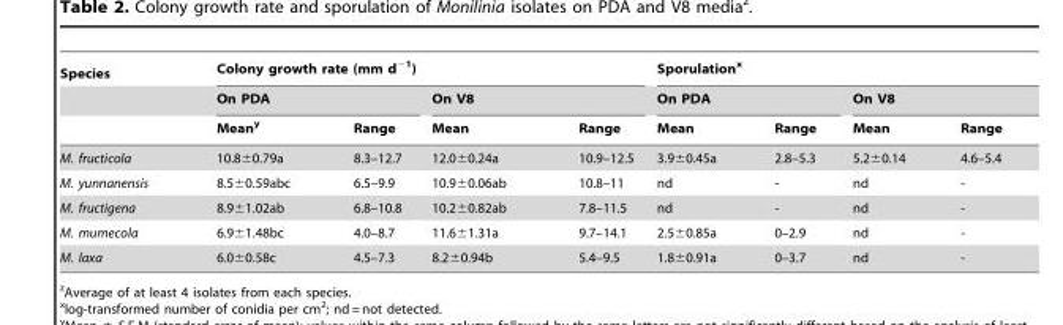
<table><thead><tr><td rowspan="3">Species</td><td colspan="4">Colony growth rate (mm d<sup>−1</sup>)</td><td colspan="4">Sporulation<sup>x</sup></td></tr><tr><td colspan="2">On PDA</td><td colspan="2">On V8</td><td colspan="2">On PDA</td><td colspan="2">On V8</td></tr><tr><td>Mean<sup>y</sup></td><td>Range</td><td>Mean</td><td>Range</td><td>Mean</td><td>Range</td><td>Mean</td><td>Range</td></tr></thead><tbody><tr><td>M. fructicola</td><td>10.8±0.79a</td><td>8.3–12.7</td><td>12.0±0.24a</td><td>10.9–12.5</td><td>3.9±0.45a</td><td>2.8–5.3</td><td>5.2±0.14</td><td>4.6–5.4</td></tr><tr><td>M. yunnanensis</td><td>8.5±0.59abc</td><td>6.5–9.9</td><td>10.9±0.06ab</td><td>10.8–11</td><td>nd</td><td>-</td><td>nd</td><td>-</td></tr><tr><td>M. fructigena</td><td>8.9±1.02ab</td><td>6.8–10.8</td><td>10.2±0.82ab</td><td>7.8–11.5</td><td>nd</td><td>-</td><td>nd</td><td>-</td></tr><tr><td>M. mumecola</td><td>6.9±1.48bc</td><td>4.0–8.7</td><td>11.6±1.31a</td><td>9.7–14.1</td><td>2.5±0.85a</td><td>0–2.9</td><td>nd</td><td>-</td></tr><tr><td>M. laxa</td><td>6.0±0.58c</td><td>4.5–7.3</td><td>8.2±0.94b</td><td>5.4–9.5</td><td>1.8±0.91a</td><td>0–3.7</td><td>nd</td><td>-</td></tr></tbody></table>